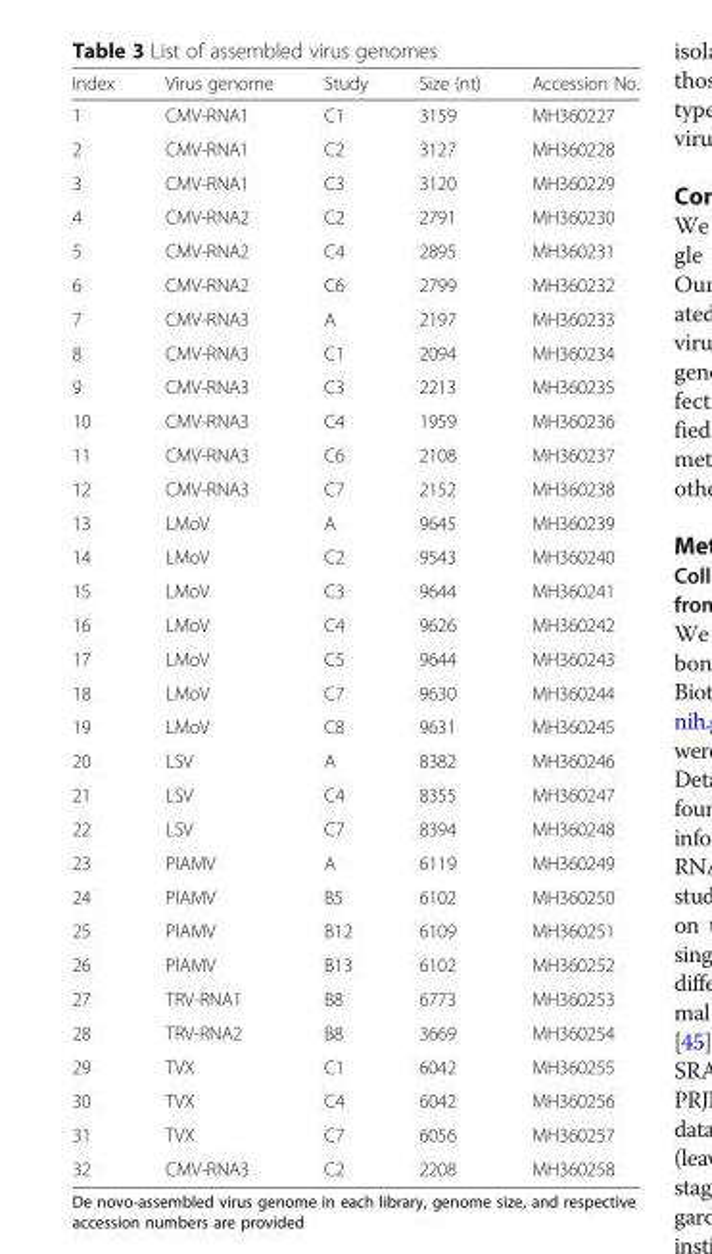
<table><thead><tr><td>Index</td><td>Virus genome</td><td>Study</td><td>Size (nt)</td><td>Accession No.</td></tr></thead><tbody><tr><td>1</td><td>CMV-RNA1</td><td>C1</td><td>3159</td><td>MH360227</td></tr><tr><td>2</td><td>CMV-RNA1</td><td>C2</td><td>3127</td><td>MH360228</td></tr><tr><td>3</td><td>CMV-RNA1</td><td>C3</td><td>3120</td><td>MH360229</td></tr><tr><td>4</td><td>CMV-RNA2</td><td>C2</td><td>2791</td><td>MH360230</td></tr><tr><td>5</td><td>CMV-RNA2</td><td>C4</td><td>2895</td><td>MH360231</td></tr><tr><td>6</td><td>CMV-RNA2</td><td>C6</td><td>2799</td><td>MH360232</td></tr><tr><td>7</td><td>CMV-RNA3</td><td>A</td><td>2197</td><td>MH360233</td></tr><tr><td>8</td><td>CMV-RNA3</td><td>C1</td><td>2094</td><td>MH360234</td></tr><tr><td>9</td><td>CMV-RNA3</td><td>C3</td><td>2213</td><td>MH360235</td></tr><tr><td>10</td><td>CMV-RNA3</td><td>C4</td><td>1959</td><td>MH360236</td></tr><tr><td>11</td><td>CMV-RNA3</td><td>C6</td><td>2108</td><td>MH360237</td></tr><tr><td>12</td><td>CMV-RNA3</td><td>C7</td><td>2152</td><td>MH360238</td></tr><tr><td>13</td><td>LMoV</td><td>A</td><td>9645</td><td>MH360239</td></tr><tr><td>14</td><td>LMoV</td><td>C2</td><td>9543</td><td>MH360240</td></tr><tr><td>15</td><td>LMoV</td><td>C3</td><td>9644</td><td>MH360241</td></tr><tr><td>16</td><td>LMoV</td><td>C4</td><td>9626</td><td>MH360242</td></tr><tr><td>17</td><td>LMoV</td><td>C5</td><td>9644</td><td>MH360243</td></tr><tr><td>18</td><td>LMoV</td><td>C7</td><td>9630</td><td>MH360244</td></tr><tr><td>19</td><td>LMoV</td><td>C8</td><td>9631</td><td>MH360245</td></tr><tr><td>20</td><td>LSV</td><td>A</td><td>8382</td><td>MH360246</td></tr><tr><td>21</td><td>LSV</td><td>C4</td><td>8355</td><td>MH360247</td></tr><tr><td>22</td><td>LSV</td><td>C7</td><td>8394</td><td>MH360248</td></tr><tr><td>23</td><td>PlAMV</td><td>A</td><td>6119</td><td>MH360249</td></tr><tr><td>24</td><td>PlAMV</td><td>B5</td><td>6102</td><td>MH360250</td></tr><tr><td>25</td><td>PlAMV</td><td>B12</td><td>6109</td><td>MH360251</td></tr><tr><td>26</td><td>PlAMV</td><td>B13</td><td>6102</td><td>MH360252</td></tr><tr><td>27</td><td>TRV-RNA1</td><td>B8</td><td>6773</td><td>MH360253</td></tr><tr><td>28</td><td>TRV-RNA2</td><td>B8</td><td>3669</td><td>MH360254</td></tr><tr><td>29</td><td>TVX</td><td>C1</td><td>6042</td><td>MH360255</td></tr><tr><td>30</td><td>TVX</td><td>C4</td><td>6042</td><td>MH360256</td></tr><tr><td>31</td><td>TVX</td><td>C7</td><td>6056</td><td>MH360257</td></tr><tr><td>32</td><td>CMV-RNA3</td><td>C2</td><td>2208</td><td>MH360258</td></tr></tbody></table>